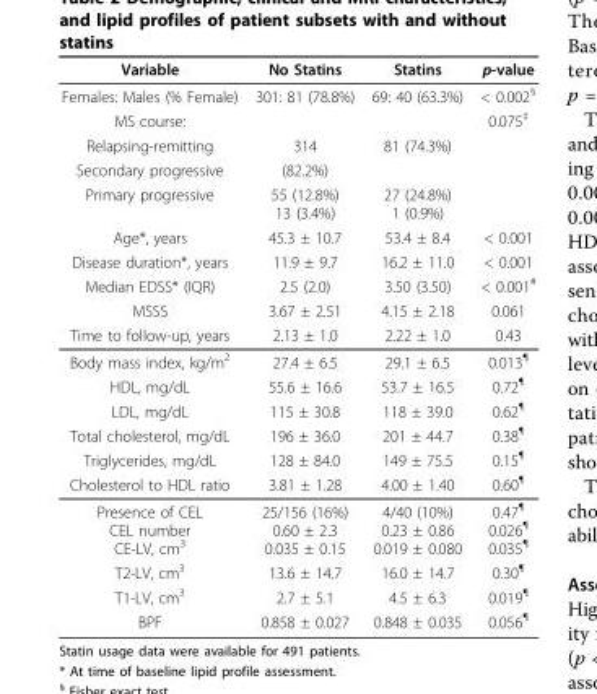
<table><thead><tr><td>Variable</td><td>No Statins</td><td>Statins</td><td>p-value</td></tr></thead><tbody><tr><td>Females: Males (% Female)</td><td>301: 81 (78.8%)</td><td>69: 40 (63.3%)</td><td>&lt; 0.002<sup>§</sup></td></tr><tr><td>MS course:</td><td></td><td></td><td>0.075<sup>‡</sup></td></tr><tr><td>Relapsing-remitting</td><td>314</td><td>81 (74.3%)</td><td></td></tr><tr><td>Secondary progressive</td><td>(82.2%)</td><td></td><td></td></tr><tr><td>Primary progressive</td><td>55 (12.8%) 13 (3.4%)</td><td>27 (24.8%) 1 (0.9%)</td><td></td></tr><tr><td>Age*, years</td><td>45.3 ± 10.7</td><td>53.4 ± 8.4</td><td>&lt; 0.001</td></tr><tr><td>Disease duration*, years</td><td>11.9 ± 9.7</td><td>16.2 ± 11.0</td><td>&lt; 0.001</td></tr><tr><td>Median EDSS* (IQR)</td><td>2.5 (2.0)</td><td>3.50 (3.50)</td><td>&lt; 0.001<sup>#</sup></td></tr><tr><td>MSSS</td><td>3.67 ± 2.51</td><td>4.15 ± 2.18</td><td>0.061</td></tr><tr><td>Time to follow-up, years</td><td>2.13 ± 1.0</td><td>2.22 ± 1.0</td><td>0.43</td></tr><tr><td>Body mass index, kg/m<sup>2</sup></td><td>27.4 ± 6.5</td><td>29.1 ± 6.5</td><td>0.013<sup>¶</sup></td></tr><tr><td>HDL, mg/dL</td><td>55.6 ± 16.6</td><td>53.7 ± 16.5</td><td>0.72<sup>¶</sup></td></tr><tr><td>LDL, mg/dL</td><td>115 ± 30.8</td><td>118 ± 39.0</td><td>0.62<sup>¶</sup></td></tr><tr><td>Total cholesterol, mg/dL</td><td>196 ± 36.0</td><td>201 ± 44.7</td><td>0.38<sup>¶</sup></td></tr><tr><td>Triglycerides, mg/dL</td><td>128 ± 84.0</td><td>149 ± 75.5</td><td>0.15<sup>¶</sup></td></tr><tr><td>Cholesterol to HDL ratio</td><td>3.81 ± 1.28</td><td>4.00 ± 1.40</td><td>0.60<sup>¶</sup></td></tr><tr><td>Presence of CEL CEL number CE-LV, cm<sup>3</sup></td><td>25/156 (16%) 0.60 ± 2.3 0.035 ± 0.15</td><td>4/40 (10%) 0.23 ± 0.86 0.019 ± 0.080</td><td>0.47<sup>¶</sup> 0.026<sup>¶</sup> 0.035<sup>¶</sup></td></tr><tr><td>T2-LV, cm<sup>3</sup></td><td>13.6 ± 14.7</td><td>16.0 ± 14.7</td><td>0.30<sup>¶</sup></td></tr><tr><td>T1-LV, cm<sup>3</sup></td><td>2.7 ± 5.1</td><td>4.5 ± 6.3</td><td>0.019<sup>¶</sup></td></tr><tr><td>BPF</td><td>0.858 ± 0.027</td><td>0.848 ± 0.035</td><td>0.056<sup>¶</sup></td></tr></tbody></table>